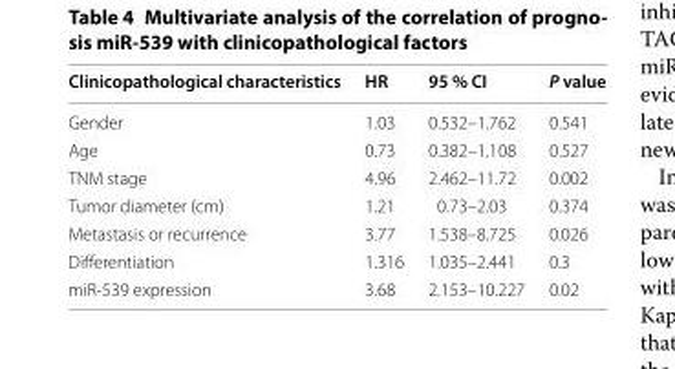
<table><thead><tr><td>Clinicopathological characteristics</td><td>HR</td><td>95 % CI</td><td>P value</td></tr></thead><tbody><tr><td>Gender</td><td>1.03</td><td>0.532–1.762</td><td>0.541</td></tr><tr><td>Age</td><td>0.73</td><td>0.382–1.108</td><td>0.527</td></tr><tr><td>TNM stage</td><td>4.96</td><td>2.462–11.72</td><td>0.002</td></tr><tr><td>Tumor diameter (cm)</td><td>1.21</td><td>0.73–2.03</td><td>0.374</td></tr><tr><td>Metastasis or recurrence</td><td>3.77</td><td>1.538–8.725</td><td>0.026</td></tr><tr><td>Differentiation</td><td>1.316</td><td>1.035–2.441</td><td>0.3</td></tr><tr><td>miR-539 expression</td><td>3.68</td><td>2.153–10.227</td><td>0.02</td></tr></tbody></table>